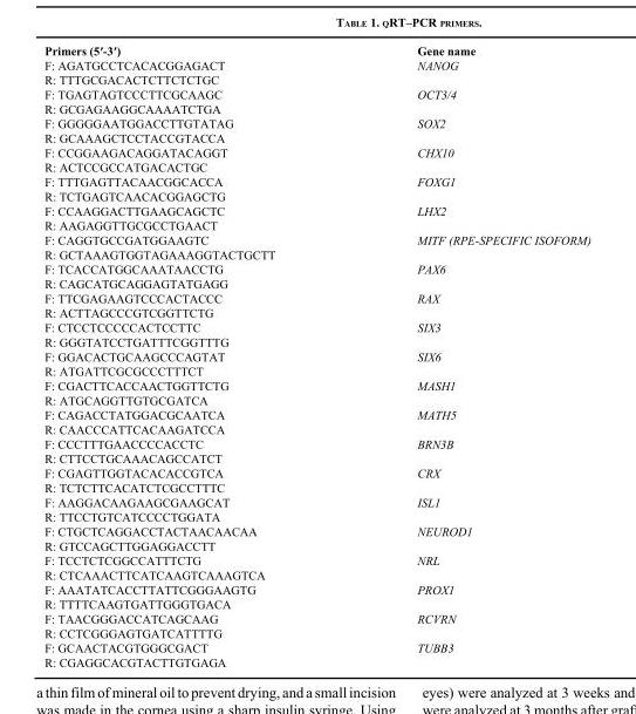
<table><thead><tr><td>Primers (5′-3′)</td><td>Gene name</td></tr></thead><tbody><tr><td>F: AGATGCCTCACACGGAGACT</td><td>NANOG</td></tr><tr><td colspan="2">R: TTTGCGACACTCTTCTCTGC</td></tr><tr><td>F: TGAGTAGTCCCTTCGCAAGC</td><td>OCT3/4</td></tr><tr><td colspan="2">R: GCGAGAAGGCAAAATCTGA</td></tr><tr><td>F: GGGGGAATGGACCTTGTATAG</td><td>SOX2</td></tr><tr><td colspan="2">R: GCAAAGCTCCTACCGTACCA</td></tr><tr><td>F: CCGGAAGACAGGATACAGGT</td><td>CHX10</td></tr><tr><td colspan="2">R: ACTCCGCCATGACACTGC</td></tr><tr><td>F: TTTGAGTTACAACGGCACCA</td><td>FOXG1</td></tr><tr><td colspan="2">R: TCTGAGTCAACACGGAGCTG</td></tr><tr><td>F: CCAAGGACTTGAAGCAGCTC</td><td>LHX2</td></tr><tr><td colspan="2">R: AAGAGGTTGCGCCTGAACT</td></tr><tr><td>F: CAGGTGCCGATGGAAGTC</td><td>MITF (RPE-SPECIFIC ISOFORM)</td></tr><tr><td colspan="2">R: GCTAAAGTGGTAGAAAGGTACTGCTT</td></tr><tr><td>F: TCACCATGGCAAATAACCTG</td><td>PAX6</td></tr><tr><td colspan="2">R: CAGCATGCAGGAGTATGAGG</td></tr><tr><td>F: TTCGAGAAGTCCCACTACCC</td><td>RAX</td></tr><tr><td colspan="2">R: ACTTAGCCCGTCGGTTCTG</td></tr><tr><td>F: CTCCTCCCCCACTCCTTC</td><td>SIX3</td></tr><tr><td colspan="2">R: GGGTATCCTGATTTCGGTTTG</td></tr><tr><td>F: GGACACTGCAAGCCCAGTAT</td><td>SIX6</td></tr><tr><td colspan="2">R: ATGATTCGCGCCCTTTCT</td></tr><tr><td>F: CGACTTCACCAACTGGTTCTG</td><td>MASH1</td></tr><tr><td colspan="2">R: ATGCAGGTTGTGCGATCA</td></tr><tr><td>F: CAGACCTATGGACGCAATCA</td><td>MATH5</td></tr><tr><td colspan="2">R: CAACCCATTCACAAGATCCA</td></tr><tr><td>F: CCCTTTGAACCCCACCTC</td><td>BRN3B</td></tr><tr><td colspan="2">R: CTTCCTGCAAACAGCCATCT</td></tr><tr><td>F: CGAGTTGGTACACACCGTCA</td><td>CRX</td></tr><tr><td colspan="2">R: TCTCTTCACATCTCGCCTTTC</td></tr><tr><td>F: AAGGACAAGAAGCGAAGCAT</td><td>ISL1</td></tr><tr><td colspan="2">R: TTCCTGTCATCCCCTGGATA</td></tr><tr><td>F: CTGCTCAGGACCTACTAACAACAA</td><td>NEUROD1</td></tr><tr><td colspan="2">R: GTCCAGCTTGGAGGACCTT</td></tr><tr><td>F: TCCTCTCGGCCATTTCTG</td><td>NRL</td></tr><tr><td colspan="2">R: CTCAAACTTCATCAAGTCAAAGTCA</td></tr><tr><td>F: AAATATCACCTTATTCGGGAAGTG</td><td>PROX1</td></tr><tr><td colspan="2">R: TTTTCAAGTGATTGGGTGACA</td></tr><tr><td>F: TAACGGGACCATCAGCAAG</td><td>RCVRN</td></tr><tr><td colspan="2">R: CCTCGGGAGTGATCATTTTG</td></tr><tr><td>F: GCAACTACGTGGGCGACT</td><td>TUBB3</td></tr><tr><td>R: CGAGGCACGTACTTGTGAGA</td><td></td></tr></tbody></table>